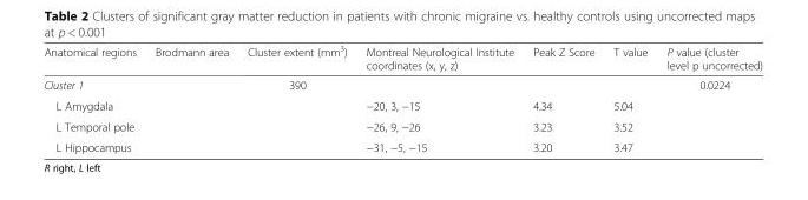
<table><thead><tr><td>Anatomical regions</td><td>Brodmann area</td><td>Cluster extent (mm<sup>3</sup>)</td><td>Montreal Neurological Institute coordinates (x, y, z)</td><td>Peak Z Score</td><td>T value</td><td>P value (cluster level p uncorrected)</td></tr></thead><tbody><tr><td>Cluster 1</td><td></td><td>390</td><td></td><td></td><td></td><td>0.0224</td></tr><tr><td>L Amygdala</td><td></td><td></td><td>−20, 3, −15</td><td>4.34</td><td>5.04</td><td></td></tr><tr><td>L Temporal pole</td><td></td><td></td><td>−26, 9, −26</td><td>3.23</td><td>3.52</td><td></td></tr><tr><td>L Hippocampus</td><td></td><td></td><td>−31, −5, −15</td><td>3.20</td><td>3.47</td><td></td></tr></tbody></table>